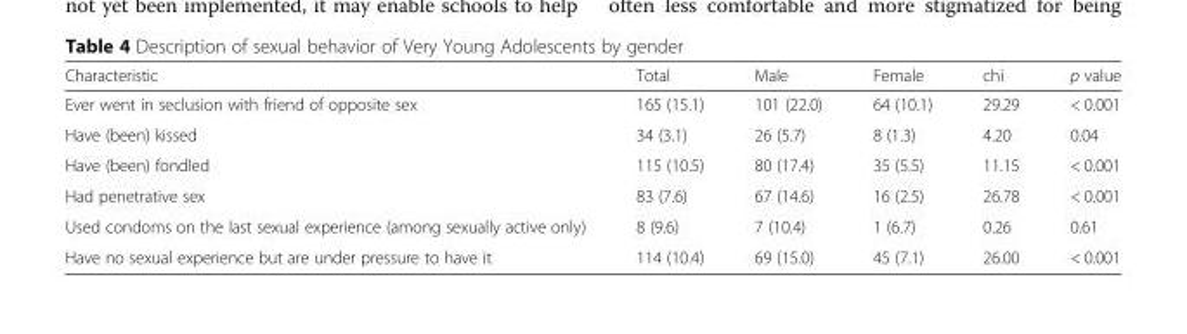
<table><thead><tr><td>Characteristic</td><td>Total</td><td>Male</td><td>Female</td><td>chi</td><td>p value</td></tr></thead><tbody><tr><td>Ever went in seclusion with friend of opposite sex</td><td>165 (15.1)</td><td>101 (22.0)</td><td>64 (10.1)</td><td>29.29</td><td>&lt; 0.001</td></tr><tr><td>Have (been) kissed</td><td>34 (3.1)</td><td>26 (5.7)</td><td>8 (1.3)</td><td>4.20</td><td>0.04</td></tr><tr><td>Have (been) fondled</td><td>115 (10.5)</td><td>80 (17.4)</td><td>35 (5.5)</td><td>11.15</td><td>&lt; 0.001</td></tr><tr><td>Had penetrative sex</td><td>83 (7.6)</td><td>67 (14.6)</td><td>16 (2.5)</td><td>26.78</td><td>&lt; 0.001</td></tr><tr><td>Used condoms on the last sexual experience (among sexually active only)</td><td>8 (9.6)</td><td>7 (10.4)</td><td>1 (6.7)</td><td>0.26</td><td>0.61</td></tr><tr><td>Have no sexual experience but are under pressure to have it</td><td>114 (10.4)</td><td>69 (15.0)</td><td>45 (7.1)</td><td>26.00</td><td>&lt; 0.001</td></tr></tbody></table>